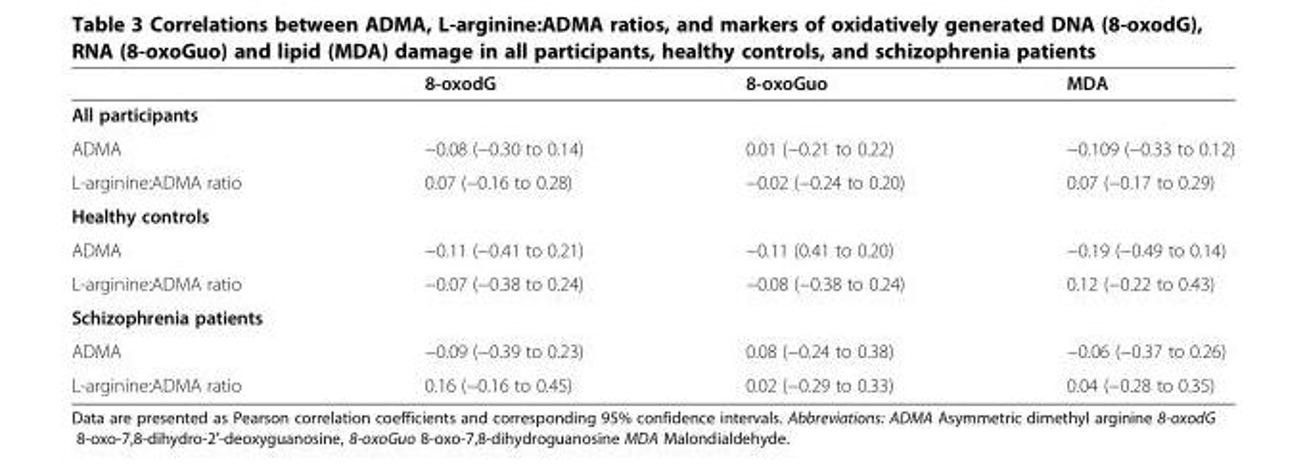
<table><thead><tr><td></td><td>8-oxodG</td><td>8-oxoGuo</td><td>MDA</td></tr></thead><tbody><tr><td colspan="4">All participants</td></tr><tr><td>ADMA</td><td>−0.08 (−0.30 to 0.14)</td><td>0.01 (−0.21 to 0.22)</td><td>−0.109 (−0.33 to 0.12)</td></tr><tr><td>L-arginine:ADMA ratio</td><td>0.07 (−0.16 to 0.28)</td><td>−0.02 (−0.24 to 0.20)</td><td>0.07 (−0.17 to 0.29)</td></tr><tr><td colspan="4">Healthy controls</td></tr><tr><td>ADMA</td><td>−0.11 (−0.41 to 0.21)</td><td>−0.11 (0.41 to 0.20)</td><td>−0.19 (−0.49 to 0.14)</td></tr><tr><td>L-arginine:ADMA ratio</td><td>−0.07 (−0.38 to 0.24)</td><td>−0.08 (−0.38 to 0.24)</td><td>0.12 (−0.22 to 0.43)</td></tr><tr><td colspan="4">Schizophrenia patients</td></tr><tr><td>ADMA</td><td>−0.09 (−0.39 to 0.23)</td><td>0.08 (−0.24 to 0.38)</td><td>−0.06 (−0.37 to 0.26)</td></tr><tr><td>L-arginine:ADMA ratio</td><td>0.16 (−0.16 to 0.45)</td><td>0.02 (−0.29 to 0.33)</td><td>0.04 (−0.28 to 0.35)</td></tr></tbody></table>